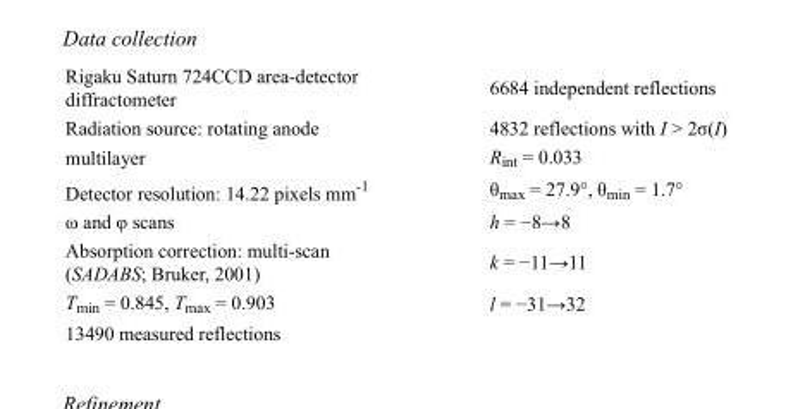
<table><tbody><tr><td>Rigaku Saturn 724CCD area-detector diffractometer</td><td>6684 independent reflections</td></tr><tr><td>Radiation source: rotating anode</td><td>4832 reflections with I &gt; 2σ(I)</td></tr><tr><td>multilayer</td><td>R<sub>int</sub> = 0.033</td></tr><tr><td>Detector resolution: 14.22 pixels mm<sup>-1</sup></td><td>θ<sub>max</sub> = 27.9°, θ<sub>min</sub> = 1.7°</td></tr><tr><td>ω and φ scans</td><td>h = −8→8</td></tr><tr><td>Absorption correction: multi-scan (SADABS; Bruker, 2001)</td><td>k = −11→11</td></tr><tr><td>T<sub>min</sub> = 0.845, T<sub>max</sub> = 0.903</td><td>l = −31→32</td></tr><tr><td>13490 measured reflections</td><td></td></tr></tbody></table>